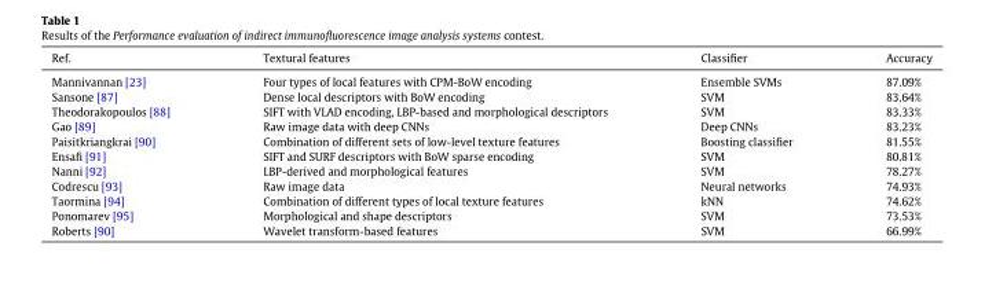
<table><thead><tr><td>Ref.</td><td>Textural features</td><td>Classifier</td><td>Accuracy</td></tr></thead><tbody><tr><td>Mannivannan [23]</td><td>Four types of local features with CPM-BoW encoding</td><td>Ensemble SVMs</td><td>87.09%</td></tr><tr><td>Sansone [87]</td><td>Dense local descriptors with BoW encoding</td><td>SVM</td><td>83.64%</td></tr><tr><td>Theodorakopoulos [88]</td><td>SIFT with VLAD encoding, LBP-based and morphological descriptors</td><td>SVM</td><td>83.33%</td></tr><tr><td>Gao [89]</td><td>Raw image data with deep CNNs</td><td>Deep CNNs</td><td>83.23%</td></tr><tr><td>Paisitkriangkrai [90]</td><td>Combination of different sets of low-level texture features</td><td>Boosting classifier</td><td>81.55%</td></tr><tr><td>Ensafi [91]</td><td>SIFT and SURF descriptors with BoW sparse encoding</td><td>SVM</td><td>80.81%</td></tr><tr><td>Nanni [92]</td><td>LBP-derived and morphological features</td><td>SVM</td><td>78.27%</td></tr><tr><td>Codrescu [93]</td><td>Raw image data</td><td>Neural networks</td><td>74.93%</td></tr><tr><td>Taormina [94]</td><td>Combination of different types of local texture features</td><td>kNN</td><td>74.62%</td></tr><tr><td>Ponomarev [95]</td><td>Morphological and shape descriptors</td><td>SVM</td><td>73.53%</td></tr><tr><td>Roberts [90]</td><td>Wavelet transform-based features</td><td>SVM</td><td>66.99%</td></tr></tbody></table>